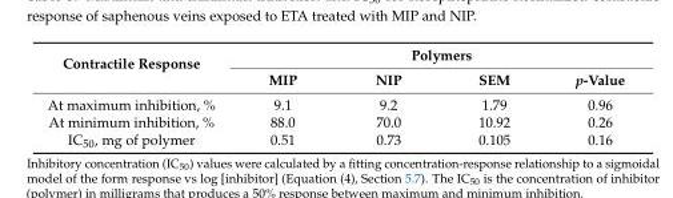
<table><thead><tr><td rowspan="2">Contractile Response</td><td colspan="4">Polymers</td></tr><tr><td>MIP</td><td>NIP</td><td>SEM</td><td>p-Value</td></tr></thead><tbody><tr><td>At maximum inhibition, %</td><td>9.1</td><td>9.2</td><td>1.79</td><td>0.96</td></tr><tr><td>At minimum inhibition, %</td><td>88.0</td><td>70.0</td><td>10.92</td><td>0.26</td></tr><tr><td>IC<sub>50</sub>, mg of polymer</td><td>0.51</td><td>0.73</td><td>0.105</td><td>0.16</td></tr></tbody></table>